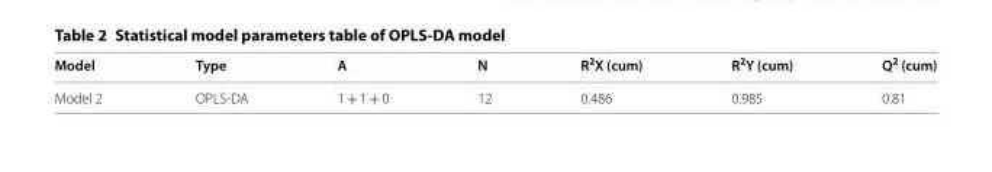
<table><thead><tr><td>Model</td><td>Type</td><td>A</td><td>N</td><td>R<sup>2</sup>X (cum)</td><td>R<sup>2</sup>Y (cum)</td><td>Q<sup>2</sup> (cum)</td></tr></thead><tbody><tr><td>Model 2</td><td>OPLS-DA</td><td>1 + 1 + 0</td><td>12</td><td>0.486</td><td>0.985</td><td>0.81</td></tr></tbody></table>